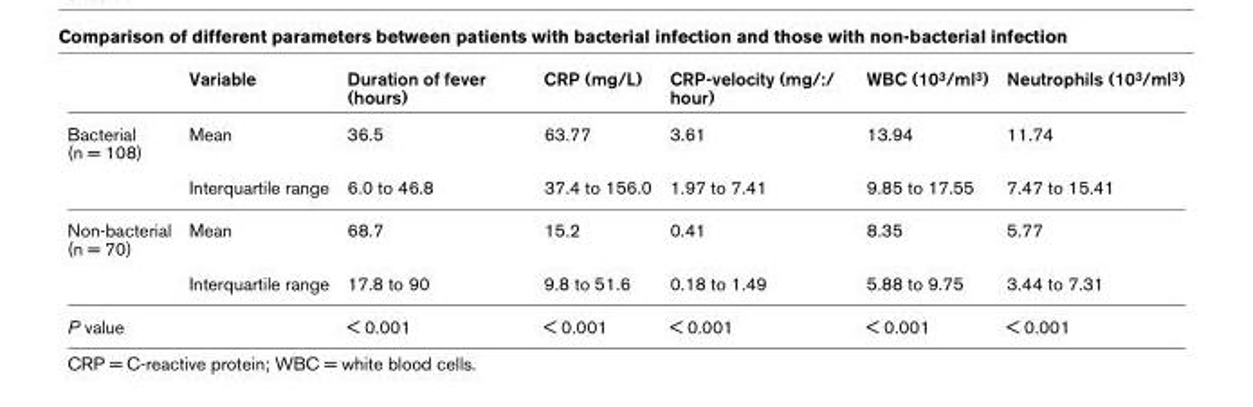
<table><thead><tr><td></td><td>Variable</td><td>Duration of fever (hours)</td><td>CRP (mg/L)</td><td>CRP-velocity (mg/:/ hour)</td><td>WBC (10<sup>3</sup>/ml<sup>3</sup>)</td><td>Neutrophils (10<sup>3</sup>/ml<sup>3</sup>)</td></tr></thead><tbody><tr><td rowspan="2">Bacterial (n = 108)</td><td>Mean</td><td>36.5</td><td>63.77</td><td>3.61</td><td>13.94</td><td>11.74</td></tr><tr><td>Interquartile range</td><td>6.0 to 46.8</td><td>37.4 to 156.0</td><td>1.97 to 7.41</td><td>9.85 to 17.55</td><td>7.47 to 15.41</td></tr><tr><td rowspan="2">Non-bacterial (n = 70)</td><td>Mean</td><td>68.7</td><td>15.2</td><td>0.41</td><td>8.35</td><td>5.77</td></tr><tr><td>Interquartile range</td><td>17.8 to 90</td><td>9.8 to 51.6</td><td>0.18 to 1.49</td><td>5.88 to 9.75</td><td>3.44 to 7.31</td></tr><tr><td>P value</td><td></td><td>&lt; 0.001</td><td>&lt; 0.001</td><td>&lt; 0.001</td><td>&lt; 0.001</td><td>&lt; 0.001</td></tr></tbody></table>